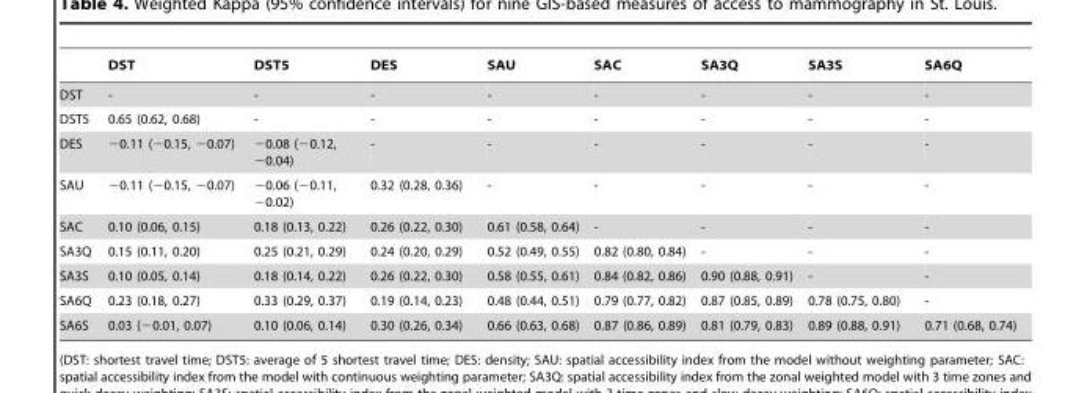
<table><thead><tr><td></td><td>DST</td><td>DST5</td><td>DES</td><td>SAU</td><td>SAC</td><td>SA3Q</td><td>SA3S</td><td>SA6Q</td></tr></thead><tbody><tr><td>DST</td><td>-</td><td>-</td><td>-</td><td>-</td><td>-</td><td>-</td><td>-</td><td>-</td></tr><tr><td>DST5</td><td>0.65 (0.62, 0.68)</td><td>-</td><td>-</td><td>-</td><td>-</td><td>-</td><td>-</td><td>-</td></tr><tr><td>DES</td><td>−0.11 (−0.15, −0.07)</td><td>−0.08 (−0.12, −0.04)</td><td>-</td><td>-</td><td>-</td><td>-</td><td>-</td><td>-</td></tr><tr><td>SAU</td><td>−0.11 (−0.15, −0.07)</td><td>−0.06 (−0.11, −0.02)</td><td>0.32 (0.28, 0.36)</td><td>-</td><td>-</td><td>-</td><td>-</td><td>-</td></tr><tr><td>SAC</td><td>0.10 (0.06, 0.15)</td><td>0.18 (0.13, 0.22)</td><td>0.26 (0.22, 0.30)</td><td>0.61 (0.58, 0.64)</td><td>-</td><td>-</td><td>-</td><td>-</td></tr><tr><td>SA3Q</td><td>0.15 (0.11, 0.20)</td><td>0.25 (0.21, 0.29)</td><td>0.24 (0.20, 0.29)</td><td>0.52 (0.49, 0.55)</td><td>0.82 (0.80, 0.84)</td><td>-</td><td>-</td><td>-</td></tr><tr><td>SA3S</td><td>0.10 (0.05, 0.14)</td><td>0.18 (0.14, 0.22)</td><td>0.26 (0.22, 0.30)</td><td>0.58 (0.55, 0.61)</td><td>0.84 (0.82, 0.86)</td><td>0.90 (0.88, 0.91)</td><td>-</td><td>-</td></tr><tr><td>SA6Q</td><td>0.23 (0.18, 0.27)</td><td>0.33 (0.29, 0.37)</td><td>0.19 (0.14, 0.23)</td><td>0.48 (0.44, 0.51)</td><td>0.79 (0.77, 0.82)</td><td>0.87 (0.85, 0.89)</td><td>0.78 (0.75, 0.80)</td><td>-</td></tr><tr><td>SA6S</td><td>0.03 (−0.01, 0.07)</td><td>0.10 (0.06, 0.14)</td><td>0.30 (0.26, 0.34)</td><td>0.66 (0.63, 0.68)</td><td>0.87 (0.86, 0.89)</td><td>0.81 (0.79, 0.83)</td><td>0.89 (0.88, 0.91)</td><td>0.71 (0.68, 0.74)</td></tr></tbody></table>